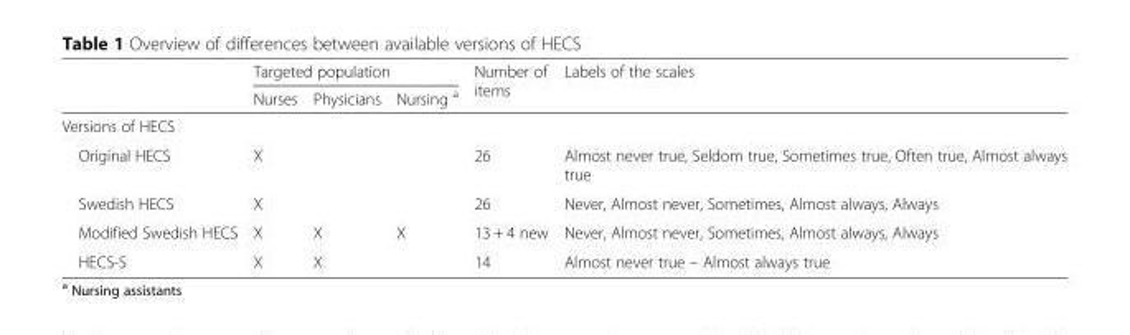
<table><thead><tr><td rowspan="2"></td><td colspan="3">Targeted population</td><td rowspan="2">Number of items</td><td rowspan="2">Labels of the scales</td></tr><tr><td>Nurses</td><td>Physicians</td><td>Nursing <sup>a</sup></td></tr></thead><tbody><tr><td colspan="6">Versions of HECS</td></tr><tr><td>Original HECS</td><td>X</td><td></td><td></td><td>26</td><td>Almost never true, Seldom true, Sometimes true, Often true, Almost always true</td></tr><tr><td>Swedish HECS</td><td>X</td><td></td><td></td><td>26</td><td>Never, Almost never, Sometimes, Almost always, Always</td></tr><tr><td>Modified Swedish HECS</td><td>X</td><td>X</td><td>X</td><td>13 + 4 new</td><td>Never, Almost never, Sometimes, Almost always, Always</td></tr><tr><td>HECS-S</td><td>X</td><td>X</td><td></td><td>14</td><td>Almost never true – Almost always true</td></tr></tbody></table>